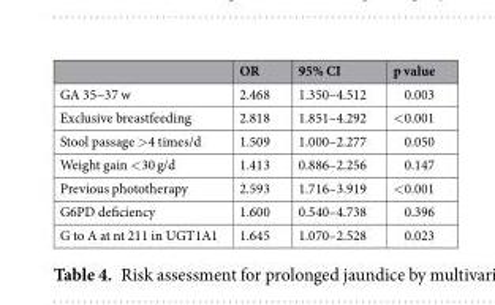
<table><thead><tr><td></td><td>OR</td><td>95% CI</td><td>p value</td></tr></thead><tbody><tr><td>GA 35~37 w</td><td>2.468</td><td>1.350–4.512</td><td>0.003</td></tr><tr><td>Exclusive breastfeeding</td><td>2.818</td><td>1.851–4.292</td><td>&lt;0.001</td></tr><tr><td>Stool passage &gt;4 times/d</td><td>1.509</td><td>1.000–2.277</td><td>0.050</td></tr><tr><td>Weight gain &lt;30 g/d</td><td>1.413</td><td>0.886–2.256</td><td>0.147</td></tr><tr><td>Previous phototherapy</td><td>2.593</td><td>1.716–3.919</td><td>&lt;0.001</td></tr><tr><td>G6PD deficiency</td><td>1.600</td><td>0.540–4.738</td><td>0.396</td></tr><tr><td>G to A at nt 211 in UGT1A1</td><td>1.645</td><td>1.070–2.528</td><td>0.023</td></tr></tbody></table>